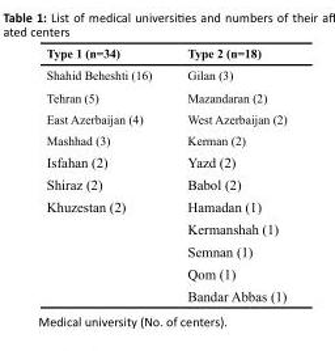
<table><thead><tr><td>Type 1 (n=34)</td><td>Type 2 (n=18)</td></tr></thead><tbody><tr><td>Shahid Beheshti (16)</td><td>Gilan (3)</td></tr><tr><td>Tehran (5)</td><td>Mazandaran (2)</td></tr><tr><td>East Azerbaijan (4)</td><td>West Azerbaijan (2)</td></tr><tr><td>Mashhad (3)</td><td>Kerman (2)</td></tr><tr><td>Isfahan (2)</td><td>Yazd (2)</td></tr><tr><td>Shiraz (2)</td><td>Babol (2)</td></tr><tr><td rowspan="5">Khuzestan (2)</td><td>Hamadan (1)</td></tr><tr><td>Kermanshah (1)</td></tr><tr><td>Semnan (1)</td></tr><tr><td>Qom (1)</td></tr><tr><td>Bandar Abbas (1)</td></tr></tbody></table>